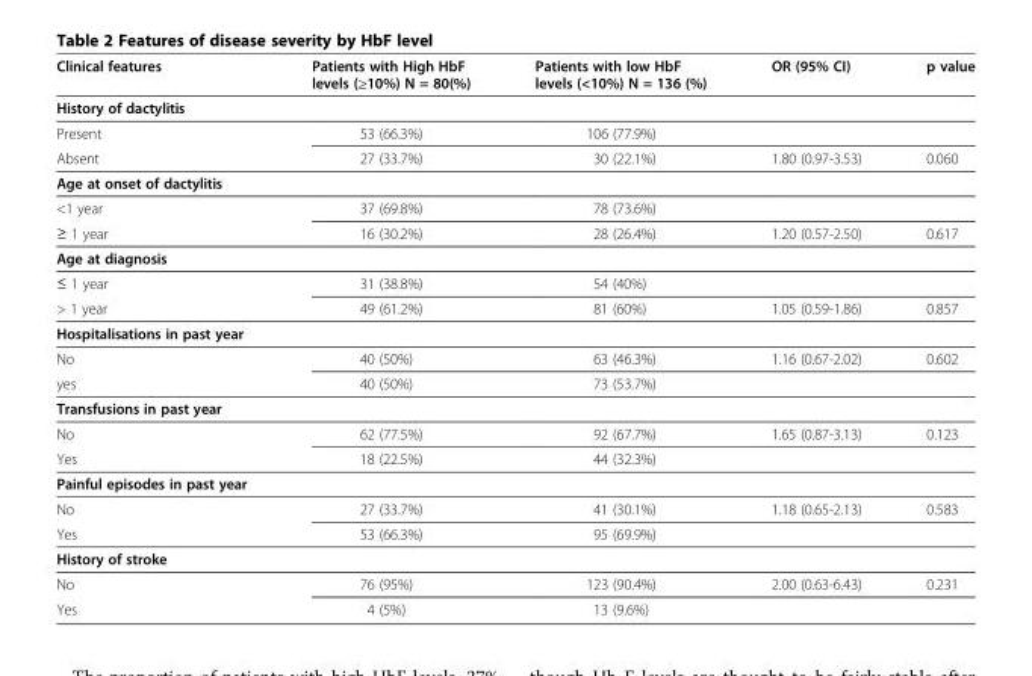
<table><thead><tr><td>Clinical features</td><td>Patients with High HbF levels (≥10%) N = 80(%)</td><td>Patients with low HbF levels (&lt;10%) N = 136 (%)</td><td>OR (95% CI)</td><td>p value</td></tr></thead><tbody><tr><td colspan="5">History of dactylitis</td></tr><tr><td>Present</td><td>53 (66.3%)</td><td>106 (77.9%)</td><td></td><td></td></tr><tr><td>Absent</td><td>27 (33.7%)</td><td>30 (22.1%)</td><td>1.80 (0.97-3.53)</td><td>0.060</td></tr><tr><td colspan="5">Age at onset of dactylitis</td></tr><tr><td>&lt;1 year</td><td>37 (69.8%)</td><td>78 (73.6%)</td><td></td><td></td></tr><tr><td>≥ 1 year</td><td>16 (30.2%)</td><td>28 (26.4%)</td><td>1.20 (0.57-2.50)</td><td>0.617</td></tr><tr><td colspan="5">Age at diagnosis</td></tr><tr><td>≤ 1 year</td><td>31 (38.8%)</td><td>54 (40%)</td><td></td><td></td></tr><tr><td>&gt; 1 year</td><td>49 (61.2%)</td><td>81 (60%)</td><td>1.05 (0.59-1.86)</td><td>0.857</td></tr><tr><td colspan="5">Hospitalisations in past year</td></tr><tr><td>No</td><td>40 (50%)</td><td>63 (46.3%)</td><td>1.16 (0.67-2.02)</td><td>0.602</td></tr><tr><td>yes</td><td>40 (50%)</td><td>73 (53.7%)</td><td></td><td></td></tr><tr><td colspan="5">Transfusions in past year</td></tr><tr><td>No</td><td>62 (77.5%)</td><td>92 (67.7%)</td><td>1.65 (0.87-3.13)</td><td>0.123</td></tr><tr><td>Yes</td><td>18 (22.5%)</td><td>44 (32.3%)</td><td></td><td></td></tr><tr><td colspan="5">Painful episodes in past year</td></tr><tr><td>No</td><td>27 (33.7%)</td><td>41 (30.1%)</td><td>1.18 (0.65-2.13)</td><td>0.583</td></tr><tr><td>Yes</td><td>53 (66.3%)</td><td>95 (69.9%)</td><td></td><td></td></tr><tr><td colspan="5">History of stroke</td></tr><tr><td>No</td><td>76 (95%)</td><td>123 (90.4%)</td><td>2.00 (0.63-6.43)</td><td>0.231</td></tr><tr><td>Yes</td><td>4 (5%)</td><td>13 (9.6%)</td><td></td><td></td></tr></tbody></table>